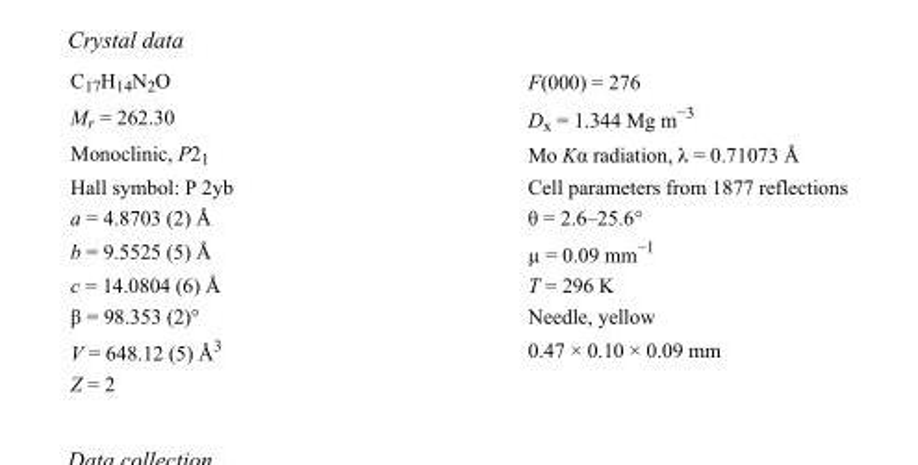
<table><tbody><tr><td>C<sub>17</sub>H<sub>14</sub>N<sub>2</sub>O</td><td>F(000) = 276</td></tr><tr><td>M<sub>r</sub> = 262.30</td><td>D<sub>x</sub> = 1.344 Mg m<sup>−3</sup></td></tr><tr><td>Monoclinic, P2<sub>1</sub></td><td>Mo Kα radiation, λ = 0.71073 Å</td></tr><tr><td>Hall symbol: P 2yb</td><td>Cell parameters from 1877 reflections</td></tr><tr><td>a = 4.8703 (2) Å</td><td>θ = 2.6–25.6°</td></tr><tr><td>b = 9.5525 (5) Å</td><td>µ = 0.09 mm<sup>−1</sup></td></tr><tr><td>c = 14.0804 (6) Å</td><td>T = 296 K</td></tr><tr><td>β = 98.353 (2)°</td><td>Needle, yellow</td></tr><tr><td>V = 648.12 (5) Å<sup>3</sup></td><td>0.47 × 0.10 × 0.09 mm</td></tr><tr><td>Z = 2</td><td></td></tr></tbody></table>